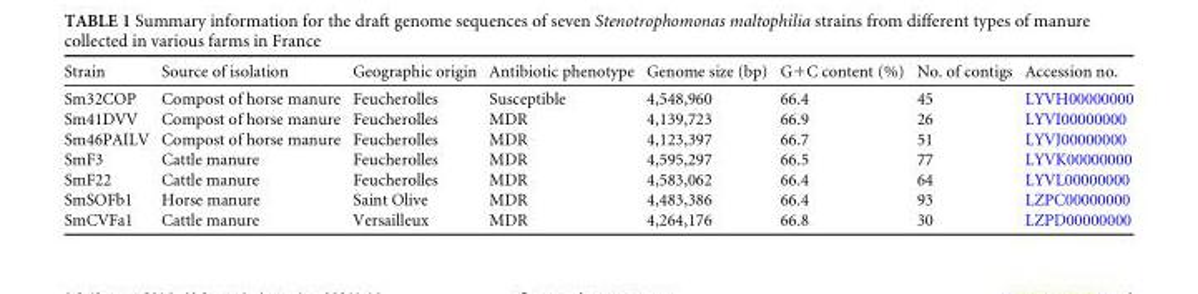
<table><thead><tr><td>Strain</td><td>Source of isolation</td><td>Geographic origin</td><td>Antibiotic phenotype</td><td>Genome size (bp)</td><td>G+C content (%)</td><td>No. of contigs</td><td>Accession no.</td></tr></thead><tbody><tr><td>Sm32COP</td><td>Compost of horse manure</td><td>Feucherolles</td><td>Susceptible</td><td>4,548,960</td><td>66.4</td><td>45</td><td>LYVH00000000</td></tr><tr><td>Sm41DVV</td><td>Compost of horse manure</td><td>Feucherolles</td><td>MDR</td><td>4,139,723</td><td>66.9</td><td>26</td><td>LYVI00000000</td></tr><tr><td>Sm46PAILV</td><td>Compost of horse manure</td><td>Feucherolles</td><td>MDR</td><td>4,123,397</td><td>66.7</td><td>51</td><td>LYVJ00000000</td></tr><tr><td>SmF3</td><td>Cattle manure</td><td>Feucherolles</td><td>MDR</td><td>4,595,297</td><td>66.5</td><td>77</td><td>LYVK00000000</td></tr><tr><td>SmF22</td><td>Cattle manure</td><td>Feucherolles</td><td>MDR</td><td>4,583,062</td><td>66.4</td><td>64</td><td>LYVL00000000</td></tr><tr><td>SmSOFb1</td><td>Horse manure</td><td>Saint Olive</td><td>MDR</td><td>4,483,386</td><td>66.4</td><td>93</td><td>LZPC00000000</td></tr><tr><td>SmCVFa1</td><td>Cattle manure</td><td>Versailleux</td><td>MDR</td><td>4,264,176</td><td>66.8</td><td>30</td><td>LZPD00000000</td></tr></tbody></table>